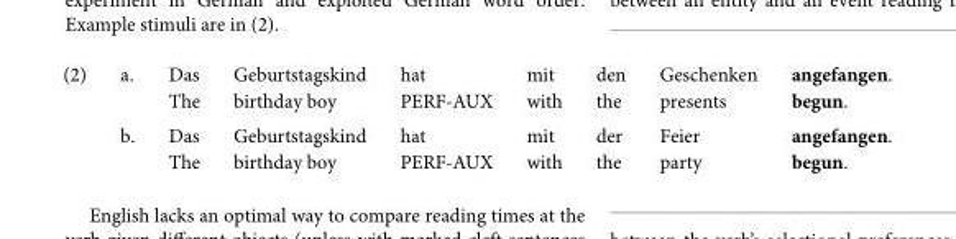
<table><tbody><tr><td rowspan="4">(2)</td><td>a.</td><td>Das</td><td>Geburtstagskind</td><td>hat</td><td>mit</td><td>den</td><td>Geschenken</td><td>angefangen.</td></tr><tr><td></td><td>The</td><td>birthday boy</td><td>PERF-AUX</td><td>with</td><td>the</td><td>presents</td><td>begun.</td></tr><tr><td>b.</td><td>Das</td><td>Geburtstagskind</td><td>hat</td><td>mit</td><td>der</td><td>Feier</td><td>angefangen.</td></tr><tr><td></td><td>The</td><td>birthday boy</td><td>PERF-AUX</td><td>with</td><td>the</td><td>party</td><td>begun.</td></tr></tbody></table>